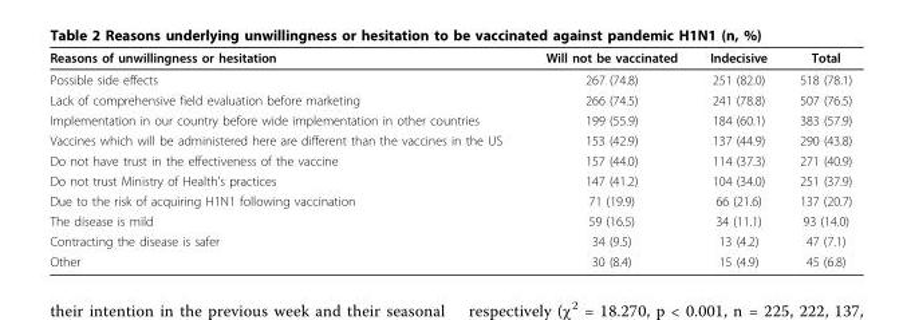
<table><thead><tr><td>Reasons of unwillingness or hesitation</td><td>Will not be vaccinated</td><td>Indecisive</td><td>Total</td></tr></thead><tbody><tr><td>Possible side effects</td><td>267 (74.8)</td><td>251 (82.0)</td><td>518 (78.1)</td></tr><tr><td>Lack of comprehensive field evaluation before marketing</td><td>266 (74.5)</td><td>241 (78.8)</td><td>507 (76.5)</td></tr><tr><td>Implementation in our country before wide implementation in other countries</td><td>199 (55.9)</td><td>184 (60.1)</td><td>383 (57.9)</td></tr><tr><td>Vaccines which will be administered here are different than the vaccines in the US</td><td>153 (42.9)</td><td>137 (44.9)</td><td>290 (43.8)</td></tr><tr><td>Do not have trust in the effectiveness of the vaccine</td><td>157 (44.0)</td><td>114 (37.3)</td><td>271 (40.9)</td></tr><tr><td>Do not trust Ministry of Health’s practices</td><td>147 (41.2)</td><td>104 (34.0)</td><td>251 (37.9)</td></tr><tr><td>Due to the risk of acquiring H1N1 following vaccination</td><td>71 (19.9)</td><td>66 (21.6)</td><td>137 (20.7)</td></tr><tr><td>The disease is mild</td><td>59 (16.5)</td><td>34 (11.1)</td><td>93 (14.0)</td></tr><tr><td>Contracting the disease is safer</td><td>34 (9.5)</td><td>13 (4.2)</td><td>47 (7.1)</td></tr><tr><td>Other</td><td>30 (8.4)</td><td>15 (4.9)</td><td>45 (6.8)</td></tr></tbody></table>